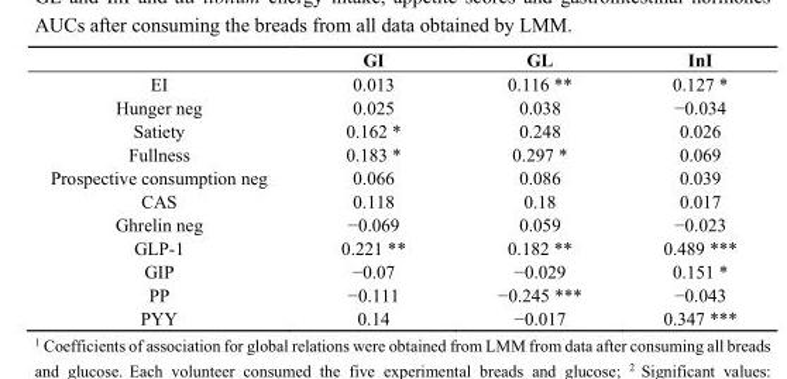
<table><thead><tr><td></td><td>GI</td><td>GL</td><td>InI</td></tr></thead><tbody><tr><td>EI</td><td>0.013</td><td>0.116 **</td><td>0.127 *</td></tr><tr><td>Hunger neg</td><td>0.025</td><td>0.038</td><td>−0.034</td></tr><tr><td>Satiety</td><td>0.162 *</td><td>0.248</td><td>0.026</td></tr><tr><td>Fullness</td><td>0.183 *</td><td>0.297 *</td><td>0.069</td></tr><tr><td>Prospective consumption neg</td><td>0.066</td><td>0.086</td><td>0.039</td></tr><tr><td>CAS</td><td>0.118</td><td>0.18</td><td>0.017</td></tr><tr><td>Ghrelin neg</td><td>−0.069</td><td>0.059</td><td>−0.023</td></tr><tr><td>GLP-1</td><td>0.221 **</td><td>0.182 **</td><td>0.489 ***</td></tr><tr><td>GIP</td><td>−0.07</td><td>−0.029</td><td>0.151 *</td></tr><tr><td>PP</td><td>−0.111</td><td>−0.245 ***</td><td>−0.043</td></tr><tr><td>PYY</td><td>0.14</td><td>−0.017</td><td>0.347 ***</td></tr></tbody></table>